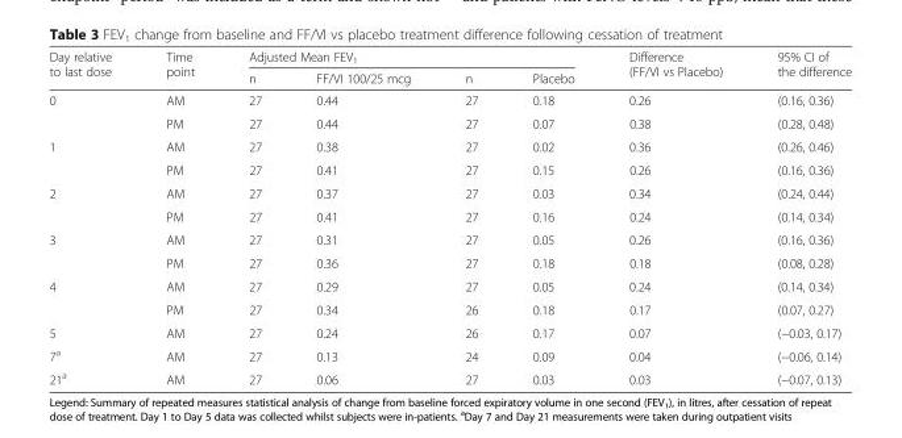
<table><thead><tr><td rowspan="2">Day relative to last dose</td><td rowspan="2">Time point</td><td colspan="4">Adjusted Mean FEV<sub>1</sub></td><td rowspan="2">Difference (FF/VI vs Placebo)</td><td rowspan="2">95% CI of the difference</td></tr><tr><td>n</td><td>FF/VI 100/25 mcg</td><td>n</td><td>Placebo</td></tr></thead><tbody><tr><td rowspan="2">0</td><td>AM</td><td>27</td><td>0.44</td><td>27</td><td>0.18</td><td>0.26</td><td>(0.16, 0.36)</td></tr><tr><td>PM</td><td>27</td><td>0.44</td><td>27</td><td>0.07</td><td>0.38</td><td>(0.28, 0.48)</td></tr><tr><td rowspan="2">1</td><td>AM</td><td>27</td><td>0.38</td><td>27</td><td>0.02</td><td>0.36</td><td>(0.26, 0.46)</td></tr><tr><td>PM</td><td>27</td><td>0.41</td><td>27</td><td>0.15</td><td>0.26</td><td>(0.16, 0.36)</td></tr><tr><td rowspan="2">2</td><td>AM</td><td>27</td><td>0.37</td><td>27</td><td>0.03</td><td>0.34</td><td>(0.24, 0.44)</td></tr><tr><td>PM</td><td>27</td><td>0.41</td><td>27</td><td>0.16</td><td>0.24</td><td>(0.14, 0.34)</td></tr><tr><td rowspan="2">3</td><td>AM</td><td>27</td><td>0.31</td><td>27</td><td>0.05</td><td>0.26</td><td>(0.16, 0.36)</td></tr><tr><td>PM</td><td>27</td><td>0.36</td><td>27</td><td>0.18</td><td>0.18</td><td>(0.08, 0.28)</td></tr><tr><td rowspan="2">4</td><td>AM</td><td>27</td><td>0.29</td><td>27</td><td>0.05</td><td>0.24</td><td>(0.14, 0.34)</td></tr><tr><td>PM</td><td>27</td><td>0.34</td><td>26</td><td>0.18</td><td>0.17</td><td>(0.07, 0.27)</td></tr><tr><td>5</td><td>AM</td><td>27</td><td>0.24</td><td>26</td><td>0.17</td><td>0.07</td><td>(−0.03, 0.17)</td></tr><tr><td>7<sup>a</sup></td><td>AM</td><td>27</td><td>0.13</td><td>24</td><td>0.09</td><td>0.04</td><td>(−0.06, 0.14)</td></tr><tr><td>21<sup>a</sup></td><td>AM</td><td>27</td><td>0.06</td><td>27</td><td>0.03</td><td>0.03</td><td>(−0.07, 0.13)</td></tr></tbody></table>